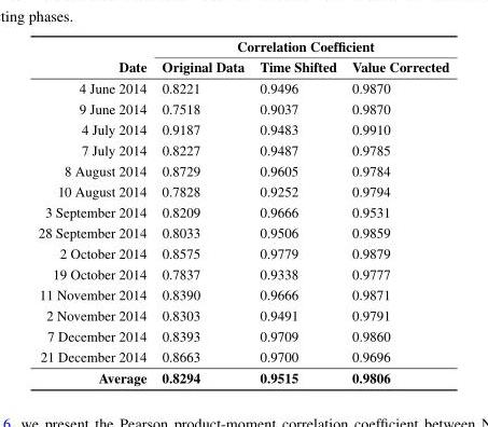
<table><thead><tr><td rowspan="2">Date</td><td colspan="3">Correlation Coefficient</td></tr><tr><td>Original Data</td><td>Time Shifted</td><td>Value Corrected</td></tr></thead><tbody><tr><td>4 June 2014</td><td>0.8221</td><td>0.9496</td><td>0.9870</td></tr><tr><td>9 June 2014</td><td>0.7518</td><td>0.9037</td><td>0.9870</td></tr><tr><td>4 July 2014</td><td>0.9187</td><td>0.9483</td><td>0.9910</td></tr><tr><td>7 July 2014</td><td>0.8227</td><td>0.9487</td><td>0.9785</td></tr><tr><td>8 August 2014</td><td>0.8729</td><td>0.9605</td><td>0.9784</td></tr><tr><td>10 August 2014</td><td>0.7828</td><td>0.9252</td><td>0.9794</td></tr><tr><td>3 September 2014</td><td>0.8209</td><td>0.9666</td><td>0.9531</td></tr><tr><td>28 September 2014</td><td>0.8033</td><td>0.9506</td><td>0.9859</td></tr><tr><td>2 October 2014</td><td>0.8575</td><td>0.9779</td><td>0.9879</td></tr><tr><td>19 October 2014</td><td>0.7837</td><td>0.9338</td><td>0.9777</td></tr><tr><td>11 November 2014</td><td>0.8390</td><td>0.9666</td><td>0.9871</td></tr><tr><td>2 November 2014</td><td>0.8303</td><td>0.9491</td><td>0.9791</td></tr><tr><td>7 December 2014</td><td>0.8393</td><td>0.9709</td><td>0.9860</td></tr><tr><td>21 December 2014</td><td>0.8663</td><td>0.9700</td><td>0.9696</td></tr><tr><td>Average</td><td>0.8294</td><td>0.9515</td><td>0.9806</td></tr></tbody></table>